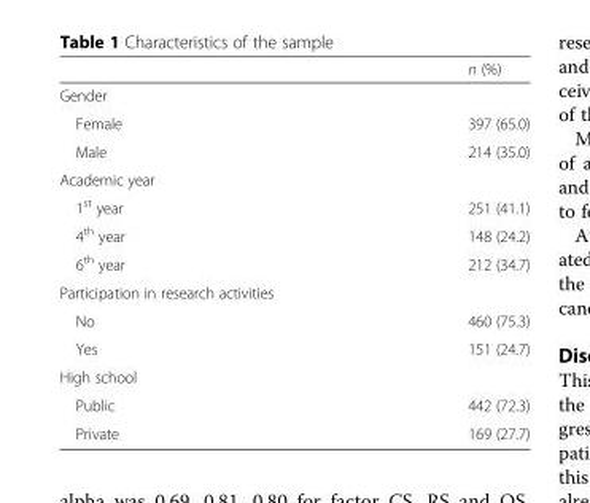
<table><thead><tr><td></td><td>n (%)</td></tr></thead><tbody><tr><td colspan="2">Gender</td></tr><tr><td>Female</td><td>397 (65.0)</td></tr><tr><td>Male</td><td>214 (35.0)</td></tr><tr><td colspan="2">Academic year</td></tr><tr><td>1<sup>st</sup> year</td><td>251 (41.1)</td></tr><tr><td>4<sup>th</sup> year</td><td>148 (24.2)</td></tr><tr><td>6<sup>th</sup> year</td><td>212 (34.7)</td></tr><tr><td colspan="2">Participation in research activities</td></tr><tr><td>No</td><td>460 (75.3)</td></tr><tr><td>Yes</td><td>151 (24.7)</td></tr><tr><td colspan="2">High school</td></tr><tr><td>Public</td><td>442 (72.3)</td></tr><tr><td>Private</td><td>169 (27.7)</td></tr></tbody></table>